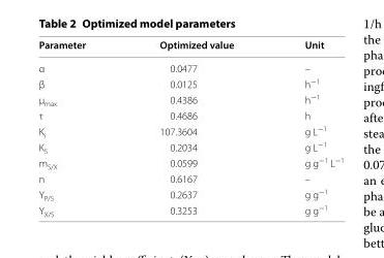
<table><thead><tr><td>Parameter</td><td>Optimized value</td><td>Unit</td></tr></thead><tbody><tr><td>α</td><td>0.0477</td><td>–</td></tr><tr><td>β</td><td>0.0125</td><td>h<sup>−1</sup></td></tr><tr><td>µ<sub>max</sub></td><td>0.4386</td><td>h<sup>−1</sup></td></tr><tr><td>τ</td><td>0.4686</td><td>h</td></tr><tr><td>K<sub>i</sub></td><td>107.3604</td><td>g L<sup>−1</sup></td></tr><tr><td>K<sub>S</sub></td><td>0.2034</td><td>g L<sup>−1</sup></td></tr><tr><td>m<sub>S/X</sub></td><td>0.0599</td><td>g g<sup>−1</sup> L<sup>−1</sup></td></tr><tr><td>n</td><td>0.6167</td><td>–</td></tr><tr><td>Y<sub>P/S</sub></td><td>0.2637</td><td>g g<sup>−1</sup></td></tr><tr><td>Y<sub>X/S</sub></td><td>0.3253</td><td>g g<sup>−1</sup></td></tr></tbody></table>